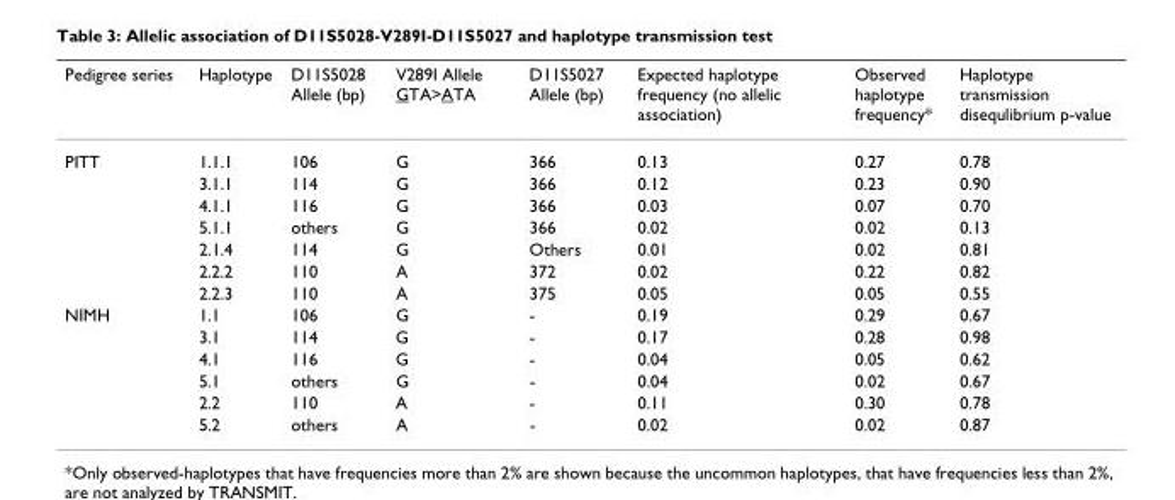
<table><thead><tr><td>Pedigree series</td><td>Haplotype</td><td>D11S5028 Allele (bp)</td><td>V289I Allele GTA&gt;ATA</td><td>D11S5027 Allele (bp)</td><td>Expected haplotype frequency (no allelic association)</td><td>Observed haplotype frequency*</td><td>Haplotype transmission disequlibrium p-value</td></tr></thead><tbody><tr><td rowspan="7">PITT</td><td>1.1.1</td><td>106</td><td>G</td><td>366</td><td>0.13</td><td>0.27</td><td>0.78</td></tr><tr><td>3.1.1</td><td>114</td><td>G</td><td>366</td><td>0.12</td><td>0.23</td><td>0.90</td></tr><tr><td>4.1.1</td><td>116</td><td>G</td><td>366</td><td>0.03</td><td>0.07</td><td>0.70</td></tr><tr><td>5.1.1</td><td>others</td><td>G</td><td>366</td><td>0.02</td><td>0.02</td><td>0.13</td></tr><tr><td>2.1.4</td><td>114</td><td>G</td><td>Others</td><td>0.01</td><td>0.02</td><td>0.81</td></tr><tr><td>2.2.2</td><td>110</td><td>A</td><td>372</td><td>0.02</td><td>0.22</td><td>0.82</td></tr><tr><td>2.2.3</td><td>110</td><td>A</td><td>375</td><td>0.05</td><td>0.05</td><td>0.55</td></tr><tr><td rowspan="6">NIMH</td><td>1.1</td><td>106</td><td>G</td><td>-</td><td>0.19</td><td>0.29</td><td>0.67</td></tr><tr><td>3.1</td><td>114</td><td>G</td><td>-</td><td>0.17</td><td>0.28</td><td>0.98</td></tr><tr><td>4.1</td><td>116</td><td>G</td><td>-</td><td>0.04</td><td>0.05</td><td>0.62</td></tr><tr><td>5.1</td><td>others</td><td>G</td><td>-</td><td>0.04</td><td>0.02</td><td>0.67</td></tr><tr><td>2.2</td><td>110</td><td>A</td><td>-</td><td>0.11</td><td>0.30</td><td>0.78</td></tr><tr><td>5.2</td><td>others</td><td>A</td><td>-</td><td>0.02</td><td>0.02</td><td>0.87</td></tr></tbody></table>